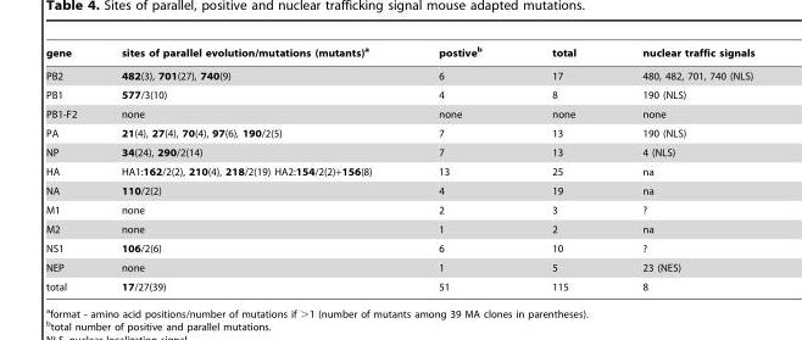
<table><thead><tr><td>gene</td><td>sites of parallel evolution/mutations (mutants)<sup>a</sup></td><td>postive<sup>b</sup></td><td>total</td><td>nuclear traffic signals</td></tr></thead><tbody><tr><td>PB2</td><td>482(3), 701(27), 740(9)</td><td>6</td><td>17</td><td>480, 482, 701, 740 (NLS)</td></tr><tr><td>PB1</td><td>577/3(10)</td><td>4</td><td>8</td><td>190 (NLS)</td></tr><tr><td>PB1-F2</td><td>none</td><td>none</td><td>none</td><td>none</td></tr><tr><td>PA</td><td>21(4), 27(4), 70(4), 97(6), 190/2(5)</td><td>7</td><td>13</td><td>190 (NLS)</td></tr><tr><td>NP</td><td>34(24), 290/2(14)</td><td>7</td><td>13</td><td>4 (NLS)</td></tr><tr><td>HA</td><td>HA1:162/2(2), 210(4), 218/2(19) HA2:154/2(2)+156(8)</td><td>13</td><td>25</td><td>na</td></tr><tr><td>NA</td><td>110/2(2)</td><td>4</td><td>19</td><td>na</td></tr><tr><td>M1</td><td>none</td><td>2</td><td>3</td><td>?</td></tr><tr><td>M2</td><td>none</td><td>1</td><td>2</td><td>na</td></tr><tr><td>NS1</td><td>106/2(6)</td><td>6</td><td>10</td><td>?</td></tr><tr><td>NEP</td><td>none</td><td>1</td><td>5</td><td>23 (NES)</td></tr><tr><td>total</td><td>17/27(39)</td><td>51</td><td>115</td><td>8</td></tr></tbody></table>